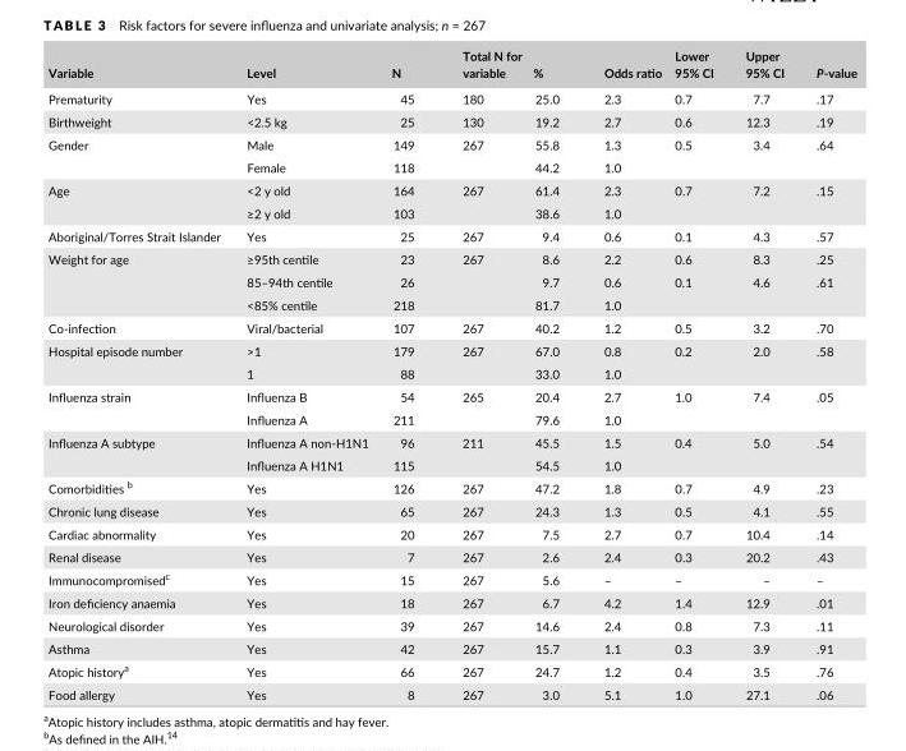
<table><thead><tr><td>Variable</td><td>Level</td><td>N</td><td>Total N for variable</td><td>%</td><td>Odds ratio</td><td>Lower 95% CI</td><td>Upper 95% CI</td><td>P- value</td></tr></thead><tbody><tr><td>Prematurity</td><td>Yes</td><td>45</td><td>180</td><td>25.0</td><td>2.3</td><td>0.7</td><td>7.7</td><td>.17</td></tr><tr><td>Birthweight</td><td>&lt;2.5 kg</td><td>25</td><td>130</td><td>19.2</td><td>2.7</td><td>0.6</td><td>12.3</td><td>.19</td></tr><tr><td rowspan="2">Gender</td><td>Male</td><td>149</td><td>267</td><td>55.8</td><td>1.3</td><td>0.5</td><td>3.4</td><td>.64</td></tr><tr><td>Female</td><td>118</td><td></td><td>44.2</td><td>1.0</td><td></td><td></td><td></td></tr><tr><td rowspan="2">Age</td><td>&lt;2 y old</td><td>164</td><td>267</td><td>61.4</td><td>2.3</td><td>0.7</td><td>7.2</td><td>.15</td></tr><tr><td>≥2 y old</td><td>103</td><td></td><td>38.6</td><td>1.0</td><td></td><td></td><td></td></tr><tr><td>Aboriginal/Torres Strait Islander</td><td>Yes</td><td>25</td><td>267</td><td>9.4</td><td>0.6</td><td>0.1</td><td>4.3</td><td>.57</td></tr><tr><td rowspan="3">Weight for age</td><td>≥95th centile</td><td>23</td><td>267</td><td>8.6</td><td>2.2</td><td>0.6</td><td>8.3</td><td>.25</td></tr><tr><td>85–94th centile</td><td>26</td><td></td><td>9.7</td><td>0.6</td><td>0.1</td><td>4.6</td><td>.61</td></tr><tr><td>&lt;85% centile</td><td>218</td><td></td><td>81.7</td><td>1.0</td><td></td><td></td><td></td></tr><tr><td>Co- infection</td><td>Viral/bacterial</td><td>107</td><td>267</td><td>40.2</td><td>1.2</td><td>0.5</td><td>3.2</td><td>.70</td></tr><tr><td rowspan="2">Hospital episode number</td><td>&gt;1</td><td>179</td><td>267</td><td>67.0</td><td>0.8</td><td>0.2</td><td>2.0</td><td>.58</td></tr><tr><td>1</td><td>88</td><td></td><td>33.0</td><td>1.0</td><td></td><td></td><td></td></tr><tr><td rowspan="2">Influenza strain</td><td>Influenza B</td><td>54</td><td>265</td><td>20.4</td><td>2.7</td><td>1.0</td><td>7.4</td><td>.05</td></tr><tr><td>Influenza A</td><td>211</td><td></td><td>79.6</td><td>1.0</td><td></td><td></td><td></td></tr><tr><td rowspan="2">Influenza A subtype</td><td>Influenza A non- H1N1</td><td>96</td><td>211</td><td>45.5</td><td>1.5</td><td>0.4</td><td>5.0</td><td>.54</td></tr><tr><td>Influenza A H1N1</td><td>115</td><td></td><td>54.5</td><td>1.0</td><td></td><td></td><td></td></tr><tr><td>Comorbidities b</td><td>Yes</td><td>126</td><td>267</td><td>47.2</td><td>1.8</td><td>0.7</td><td>4.9</td><td>.23</td></tr><tr><td>Chronic lung disease</td><td>Yes</td><td>65</td><td>267</td><td>24.3</td><td>1.3</td><td>0.5</td><td>4.1</td><td>.55</td></tr><tr><td>Cardiac abnormality</td><td>Yes</td><td>20</td><td>267</td><td>7.5</td><td>2.7</td><td>0.7</td><td>10.4</td><td>.14</td></tr><tr><td>Renal disease</td><td>Yes</td><td>7</td><td>267</td><td>2.6</td><td>2.4</td><td>0.3</td><td>20.2</td><td>.43</td></tr><tr><td>Immunocompromised<sup>c</sup></td><td>Yes</td><td>15</td><td>267</td><td>5.6</td><td>–</td><td>–</td><td>–</td><td>–</td></tr><tr><td>Iron deficiency anaemia</td><td>Yes</td><td>18</td><td>267</td><td>6.7</td><td>4.2</td><td>1.4</td><td>12.9</td><td>.01</td></tr><tr><td>Neurological disorder</td><td>Yes</td><td>39</td><td>267</td><td>14.6</td><td>2.4</td><td>0.8</td><td>7.3</td><td>.11</td></tr><tr><td>Asthma</td><td>Yes</td><td>42</td><td>267</td><td>15.7</td><td>1.1</td><td>0.3</td><td>3.9</td><td>.91</td></tr><tr><td>Atopic history<sup>a</sup></td><td>Yes</td><td>66</td><td>267</td><td>24.7</td><td>1.2</td><td>0.4</td><td>3.5</td><td>.76</td></tr><tr><td>Food allergy</td><td>Yes</td><td>8</td><td>267</td><td>3.0</td><td>5.1</td><td>1.0</td><td>27.1</td><td>.06</td></tr></tbody></table>